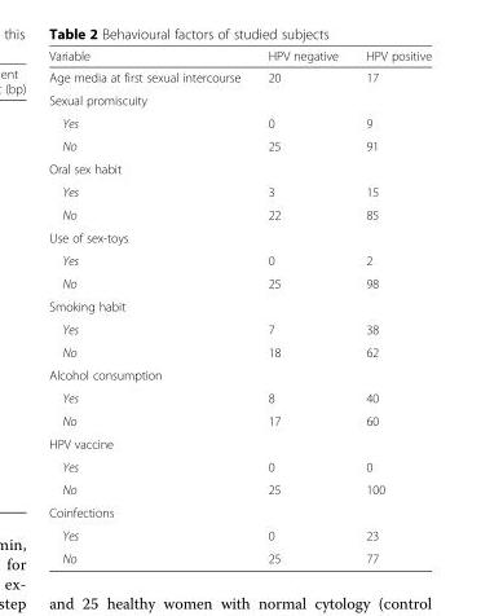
<table><thead><tr><td>Variable</td><td>HPV negative</td><td>HPV positive</td></tr></thead><tbody><tr><td>Age media at first sexual intercourse</td><td>20</td><td>17</td></tr><tr><td colspan="3">Sexual promiscuity</td></tr><tr><td>Yes</td><td>0</td><td>9</td></tr><tr><td>No</td><td>25</td><td>91</td></tr><tr><td colspan="3">Oral sex habit</td></tr><tr><td>Yes</td><td>3</td><td>15</td></tr><tr><td>No</td><td>22</td><td>85</td></tr><tr><td colspan="3">Use of sex-toys</td></tr><tr><td>Yes</td><td>0</td><td>2</td></tr><tr><td>No</td><td>25</td><td>98</td></tr><tr><td colspan="3">Smoking habit</td></tr><tr><td>Yes</td><td>7</td><td>38</td></tr><tr><td>No</td><td>18</td><td>62</td></tr><tr><td colspan="3">Alcohol consumption</td></tr><tr><td>Yes</td><td>8</td><td>40</td></tr><tr><td>No</td><td>17</td><td>60</td></tr><tr><td colspan="3">HPV vaccine</td></tr><tr><td>Yes</td><td>0</td><td>0</td></tr><tr><td>No</td><td>25</td><td>100</td></tr><tr><td colspan="3">Coinfections</td></tr><tr><td>Yes</td><td>0</td><td>23</td></tr><tr><td>No</td><td>25</td><td>77</td></tr></tbody></table>